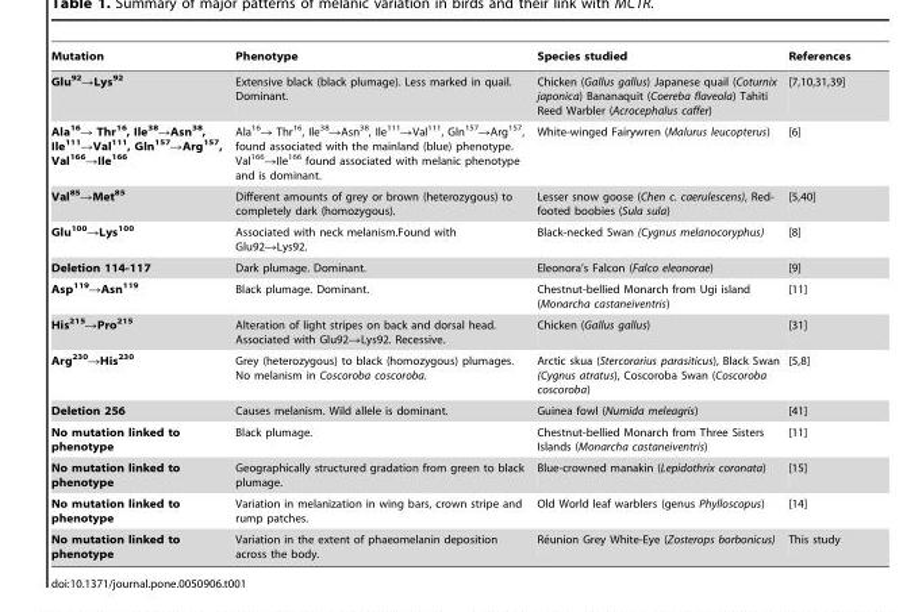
<table><thead><tr><td>Mutation</td><td>Phenotype</td><td>Species studied</td><td>References</td></tr></thead><tbody><tr><td>Glu<sup>92</sup>→Lys<sup>92</sup></td><td>Extensive black (black plumage). Less marked in quail. Dominant.</td><td>Chicken (Gallus gallus) Japanese quail (Coturnix japonica) Bananaquit (Coereba flaveola) Tahiti Reed Warbler (Acrocephalus caffer)</td><td>[7,10,31,39]</td></tr><tr><td>Ala<sup>16</sup>→ Thr<sup>16</sup>, Ile<sup>38</sup>→Asn<sup>38</sup>, Ile<sup>111</sup>→Val<sup>111</sup>, Gln<sup>157</sup>→Arg<sup>157</sup>, Val<sup>166</sup>→Ile<sup>166</sup></td><td>Ala<sup>16</sup>→ Thr<sup>16</sup>, Ile<sup>38</sup>→Asn<sup>38</sup>, Ile<sup>111</sup>→Val<sup>111</sup>, Gln<sup>157</sup>→Arg<sup>157</sup>, found associated with the mainland (blue) phenotype. Val<sup>166</sup>→Ile<sup>166</sup> found associated with melanic phenotype and is dominant.</td><td>White-winged Fairywren (Malurus leucopterus)</td><td>[6]</td></tr><tr><td>Val<sup>85</sup>→Met<sup>85</sup></td><td>Different amounts of grey or brown (heterozygous) to completely dark (homozygous).</td><td>Lesser snow goose (Chen c. caerulescens), Red- footed boobies (Sula sula)</td><td>[5,40]</td></tr><tr><td>Glu<sup>100</sup>→Lys<sup>100</sup></td><td>Associated with neck melanism.Found with Glu92→Lys92.</td><td>Black-necked Swan (Cygnus melanocoryphus)</td><td>[8]</td></tr><tr><td>Deletion 114-117</td><td>Dark plumage. Dominant.</td><td>Eleonora’s Falcon (Falco eleonorae)</td><td>[9]</td></tr><tr><td>Asp<sup>119</sup>→Asn<sup>119</sup></td><td>Black plumage. Dominant.</td><td>Chestnut-bellied Monarch from Ugi island (Monarcha castaneiventris)</td><td>[11]</td></tr><tr><td>His<sup>215</sup>→Pro<sup>215</sup></td><td>Alteration of light stripes on back and dorsal head. Associated with Glu92→Lys92. Recessive.</td><td>Chicken (Gallus gallus)</td><td>[31]</td></tr><tr><td>Arg<sup>230</sup>→His<sup>230</sup></td><td>Grey (heterozygous) to black (homozygous) plumages. No melanism in Coscoroba coscoroba.</td><td>Arctic skua (Stercorarius parasiticus), Black Swan (Cygnus atratus), Coscoroba Swan (Coscoroba coscoroba)</td><td>[5,8]</td></tr><tr><td>Deletion 256</td><td>Causes melanism. Wild allele is dominant.</td><td>Guinea fowl (Numida meleagris)</td><td>[41]</td></tr><tr><td>No mutation linked to phenotype</td><td>Black plumage.</td><td>Chestnut-bellied Monarch from Three Sisters Islands (Monarcha castaneiventris)</td><td>[11]</td></tr><tr><td>No mutation linked to phenotype</td><td>Geographically structured gradation from green to black plumage.</td><td>Blue-crowned manakin (Lepidothrix coronata)</td><td>[15]</td></tr><tr><td>No mutation linked to phenotype</td><td>Variation in melanization in wing bars, crown stripe and rump patches.</td><td>Old World leaf warblers (genus Phylloscopus)</td><td>[14]</td></tr><tr><td>No mutation linked to phenotype</td><td>Variation in the extent of phaeomelanin deposition across the body.</td><td>Re´union Grey White-Eye (Zosterops borbonicus)</td><td>This study</td></tr></tbody></table>